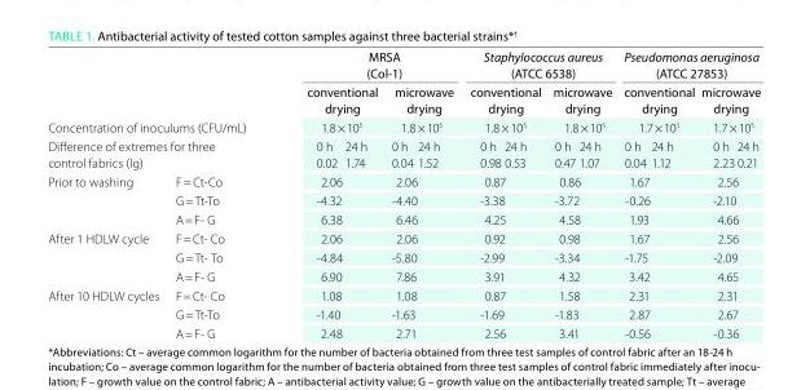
<table><thead><tr><td rowspan="2"></td><td rowspan="2"></td><td colspan="4">MRSA (Col-1)</td><td colspan="4">Staphylococcus aureus (AtCC 6538)</td><td colspan="4">Pseudomonas aeruginosa (AtCC 27853)</td></tr><tr><td rowspan="2" colspan="2">conventional drying 1.8 × 10<sup>5</sup></td><td rowspan="2" colspan="2">microwave drying 1.8 × 10<sup>5</sup></td><td rowspan="2" colspan="2">conventional drying 1.8 × 10<sup>5</sup></td><td rowspan="2" colspan="2">microwave drying 1.8 × 10<sup>5</sup></td><td rowspan="2" colspan="2">conventional drying 1.7 × 10<sup>5</sup></td><td rowspan="2" colspan="2">microwave drying 1.7 × 10<sup>5</sup></td></tr><tr><td rowspan="2" colspan="2">Concentration of inoculums (CFU/mL) Difference of extremes for three control fabrics (lg)</td></tr><tr><td>0 h 0.02</td><td>24 h 1.74</td><td>0 h 0.04</td><td>24 h 1.52</td><td>0 h 0.98</td><td>24 h 0.53</td><td>0 h 0.47</td><td>24 h 1.07</td><td>0 h 0.04</td><td>24 h 1.12</td><td>0 h 2.23</td><td>24 h 0.21</td></tr></thead><tbody><tr><td rowspan="3">Prior to washing</td><td>F = Ct-Co</td><td colspan="2">2.06</td><td colspan="2">2.06</td><td colspan="2">0.87</td><td colspan="2">0.86</td><td colspan="2">1.67</td><td colspan="2">2.56</td></tr><tr><td>G = Tt-To</td><td colspan="2">-4.32</td><td colspan="2">-4.40</td><td colspan="2">-3.38</td><td colspan="2">-3.72</td><td colspan="2">-0.26</td><td colspan="2">-2.10</td></tr><tr><td>A = F- G</td><td colspan="2">6.38</td><td colspan="2">6.46</td><td colspan="2">4.25</td><td colspan="2">4.58</td><td colspan="2">1.93</td><td colspan="2">4.66</td></tr><tr><td rowspan="3">After 1 HDLW cycle</td><td>F = Ct- Co</td><td colspan="2">2.06</td><td colspan="2">2.06</td><td colspan="2">0.92</td><td colspan="2">0.98</td><td colspan="2">1.67</td><td colspan="2">2.56</td></tr><tr><td>G = Tt- To</td><td colspan="2">-4.84</td><td colspan="2">-5.80</td><td colspan="2">-2.99</td><td colspan="2">-3.34</td><td colspan="2">-1.75</td><td colspan="2">-2.09</td></tr><tr><td>A = F- G</td><td colspan="2">6.90</td><td colspan="2">7.86</td><td colspan="2">3.91</td><td colspan="2">4.32</td><td colspan="2">3.42</td><td colspan="2">4.65</td></tr><tr><td rowspan="3">After 10 HDLW cycles</td><td>F = Ct- Co</td><td colspan="2">1.08</td><td colspan="2">1.08</td><td colspan="2">0.87</td><td colspan="2">1.58</td><td colspan="2">2.31</td><td colspan="2">2.31</td></tr><tr><td>G = Tt-To</td><td colspan="2">-1.40</td><td colspan="2">-1.63</td><td colspan="2">-1.69</td><td colspan="2">-1.83</td><td colspan="2">2.87</td><td colspan="2">2.67</td></tr><tr><td>A = F- G</td><td colspan="2">2.48</td><td colspan="2">2.71</td><td colspan="2">2.56</td><td colspan="2">3.41</td><td colspan="2">-0.56</td><td colspan="2">-0.36</td></tr></tbody></table>